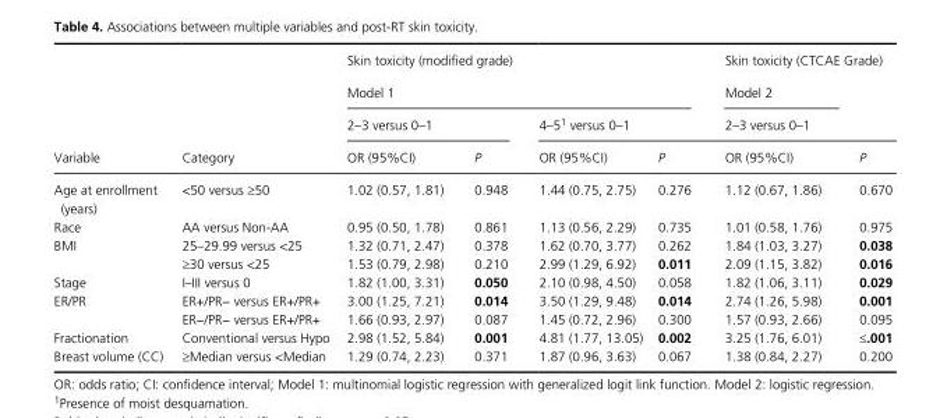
<table><thead><tr><td rowspan="4">Variable</td><td rowspan="4">Category</td><td rowspan="2" colspan="4">Skin toxicity (modified grade) Model 1</td><td rowspan="3" colspan="2">Skin toxicity (CTCAE Grade) Model 2 2–3 versus 0–1</td></tr><tr></tr><tr><td colspan="2">2–3 versus 0–1</td><td colspan="2">4–51 versus 0–1</td></tr><tr><td>OR (95%CI)</td><td>P</td><td>OR (95%CI)</td><td>P</td><td>OR (95%CI)</td><td>P</td></tr></thead><tbody><tr><td>Age at enrollment (years)</td><td>&lt;50 versus ≥50</td><td>1.02 (0.57, 1.81)</td><td>0.948</td><td>1.44 (0.75, 2.75)</td><td>0.276</td><td>1.12 (0.67, 1.86)</td><td>0.670</td></tr><tr><td>Race</td><td>AA versus Non- AA</td><td>0.95 (0.50, 1.78)</td><td>0.861</td><td>1.13 (0.56, 2.29)</td><td>0.735</td><td>1.01 (0.58, 1.76)</td><td>0.975</td></tr><tr><td rowspan="2">BMI</td><td>25–29.99 versus &lt;25</td><td>1.32 (0.71, 2.47)</td><td>0.378</td><td>1.62 (0.70, 3.77)</td><td>0.262</td><td>1.84 (1.03, 3.27)</td><td>0.038</td></tr><tr><td>≥30 versus &lt;25</td><td>1.53 (0.79, 2.98)</td><td>0.210</td><td>2.99 (1.29, 6.92)</td><td>0.011</td><td>2.09 (1.15, 3.82)</td><td>0.016</td></tr><tr><td>Stage</td><td>I–III versus 0</td><td>1.82 (1.00, 3.31)</td><td>0.050</td><td>2.10 (0.98, 4.50)</td><td>0.058</td><td>1.82 (1.06, 3.11)</td><td>0.029</td></tr><tr><td rowspan="2">ER/PR</td><td>ER+/PR− versus ER+/PR+</td><td>3.00 (1.25, 7.21)</td><td>0.014</td><td>3.50 (1.29, 9.48)</td><td>0.014</td><td>2.74 (1.26, 5.98)</td><td>0.001</td></tr><tr><td>ER−/PR− versus ER+/PR+</td><td>1.66 (0.93, 2.97)</td><td>0.087</td><td>1.45 (0.72, 2.96)</td><td>0.300</td><td>1.57 (0.93, 2.66)</td><td>0.095</td></tr><tr><td>Fractionation</td><td>Conventional versus Hypo</td><td>2.98 (1.52, 5.84)</td><td>0.001</td><td>4.81 (1.77, 13.05)</td><td>0.002</td><td>3.25 (1.76, 6.01)</td><td>≤.001</td></tr><tr><td>Breast volume (CC)</td><td>≥Median versus &lt;Median</td><td>1.29 (0.74, 2.23)</td><td>0.371</td><td>1.87 (0.96, 3.63)</td><td>0.067</td><td>1.38 (0.84, 2.27)</td><td>0.200</td></tr></tbody></table>